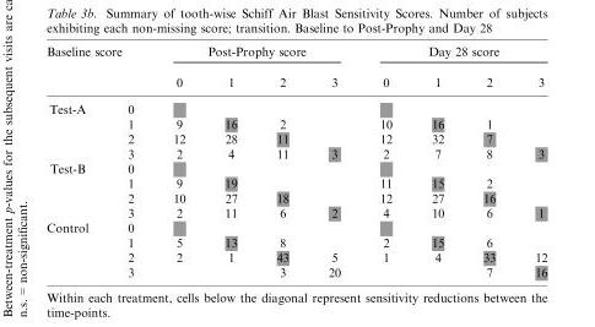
<table><thead><tr><td colspan="2">Baseline score</td><td colspan="4">Post-Prophy score</td><td colspan="4">Day 28 score</td></tr><tr><td></td><td></td><td>0</td><td>1</td><td>2</td><td>3</td><td>0</td><td>1</td><td>2</td><td>3</td></tr></thead><tbody><tr><td rowspan="4">Test-A</td><td>0</td><td></td><td></td><td></td><td></td><td></td><td></td><td></td><td></td></tr><tr><td>1</td><td>9</td><td>16</td><td>2</td><td></td><td>10</td><td>16</td><td>1</td><td></td></tr><tr><td>2</td><td>12</td><td>28</td><td>11</td><td></td><td>12</td><td>32</td><td>7</td><td></td></tr><tr><td>3</td><td>2</td><td>4</td><td>11</td><td>3</td><td>2</td><td>7</td><td>8</td><td>3</td></tr><tr><td rowspan="4">Test-B</td><td>0</td><td></td><td></td><td></td><td></td><td></td><td></td><td></td><td></td></tr><tr><td>1</td><td>9</td><td>19</td><td></td><td></td><td>11</td><td>15</td><td>2</td><td></td></tr><tr><td>2</td><td>10</td><td>27</td><td>18</td><td></td><td>12</td><td>27</td><td>16</td><td></td></tr><tr><td>3</td><td>2</td><td>11</td><td>6</td><td>2</td><td>4</td><td>10</td><td>6</td><td>1</td></tr><tr><td rowspan="4">Control</td><td>0</td><td></td><td></td><td></td><td></td><td></td><td></td><td></td><td></td></tr><tr><td>1</td><td>5</td><td>13</td><td>8</td><td></td><td>2</td><td>15</td><td>6</td><td></td></tr><tr><td>2</td><td>2</td><td>1</td><td>43</td><td>5</td><td>1</td><td>4</td><td>33</td><td>12</td></tr><tr><td>3</td><td></td><td></td><td>3</td><td>20</td><td></td><td></td><td>7</td><td>16</td></tr></tbody></table>